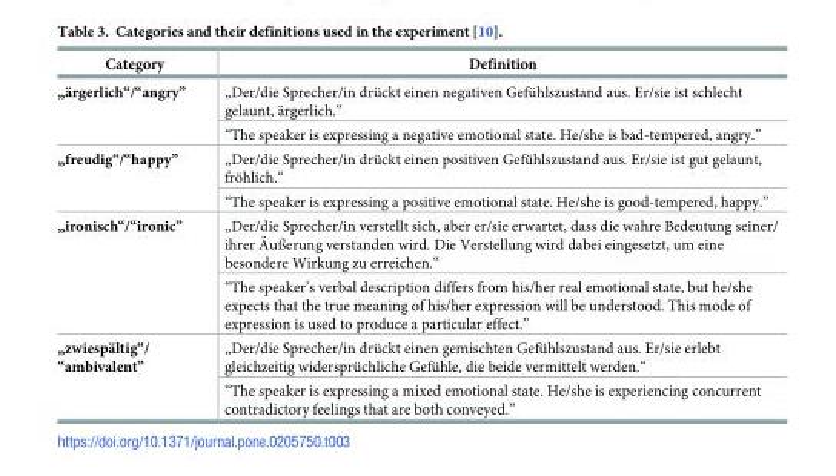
<table><thead><tr><td>Category</td><td>Definition</td></tr></thead><tbody><tr><td rowspan="2">„a¨rgerlich“/“angry”</td><td>„Der/die Sprecher/in dru¨ckt einen negativen Gefu¨hlszustand aus. Er/sie ist schlecht gelaunt, a¨rgerlich.“</td></tr><tr><td>“The speaker is expressing a negative emotional state. He/she is bad-tempered, angry.”</td></tr><tr><td rowspan="2">„freudig“/“happy”</td><td>„Der/die Sprecher/in dru¨ckt einen positiven Gefu¨hlszustand aus. Er/sie ist gut gelaunt, fro¨hlich.“</td></tr><tr><td>“The speaker is expressing a positive emotional state. He/she is good-tempered, happy.”</td></tr><tr><td rowspan="2">„ironisch“/“ironic”</td><td>„Der/die Sprecher/in verstellt sich, aber er/sie erwartet, dass die wahre Bedeutung seiner/ ihrer A¨ußerung verstanden wird. Die Verstellung wird dabei eingesetzt, um eine besondere Wirkung zu erreichen.“</td></tr><tr><td>“The speaker’s verbal description differs from his/her real emotional state, but he/she expects that the true meaning of his/her expression will be understood. This mode of expression is used to produce a particular effect.”</td></tr><tr><td rowspan="2">„zwiespa¨ltig“/ “ambivalent”</td><td>„Der/die Sprecher/in dru¨ckt einen gemischten Gefu¨hlszustand aus. Er/sie erlebt gleichzeitig widerspru¨chliche Gefu¨hle, die beide vermittelt werden.“</td></tr><tr><td>“The speaker is expressing a mixed emotional state. He/she is experiencing concurrent contradictory feelings that are both conveyed.”</td></tr></tbody></table>